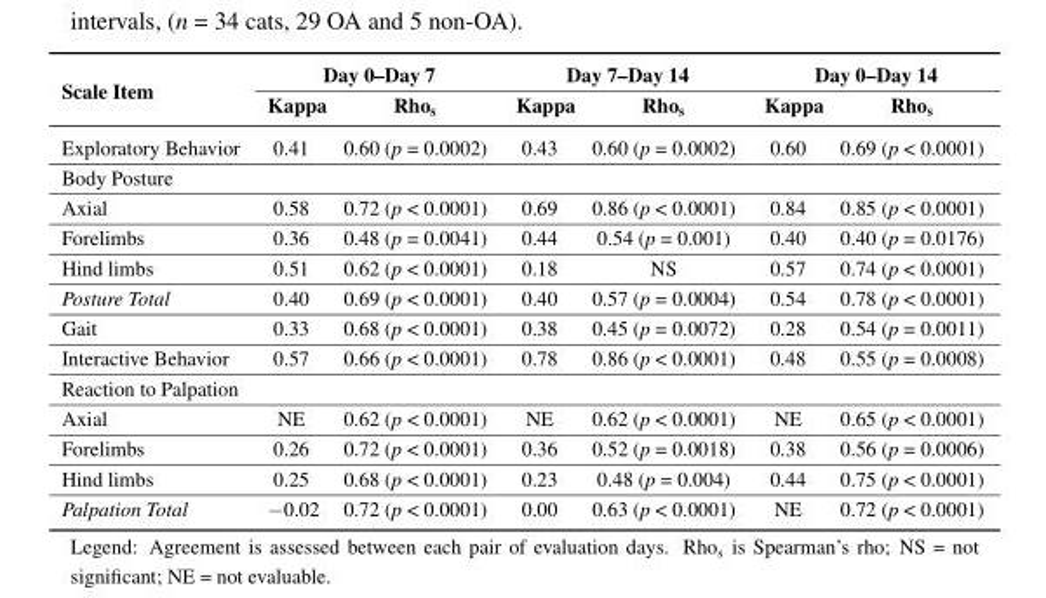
<table><thead><tr><td rowspan="2">Scale Item</td><td colspan="2">Day 0–Day 7</td><td colspan="2">Day 7–Day 14</td><td colspan="2">Day 0–Day 14</td></tr><tr><td>Kappa</td><td>Rho<sub>s</sub></td><td>Kappa</td><td>Rho<sub>s</sub></td><td>Kappa</td><td>Rho<sub>s</sub></td></tr></thead><tbody><tr><td>Exploratory Behavior</td><td>0.41</td><td>0.60 (p = 0.0002)</td><td>0.43</td><td>0.60 (p = 0.0002)</td><td>0.60</td><td>0.69 (p &lt; 0.0001)</td></tr><tr><td colspan="7">Body Posture</td></tr><tr><td>Axial</td><td>0.58</td><td>0.72 (p &lt; 0.0001)</td><td>0.69</td><td>0.86 (p &lt; 0.0001)</td><td>0.84</td><td>0.85 (p &lt; 0.0001)</td></tr><tr><td>Forelimbs</td><td>0.36</td><td>0.48 (p = 0.0041)</td><td>0.44</td><td>0.54 (p = 0.001)</td><td>0.40</td><td>0.40 (p = 0.0176)</td></tr><tr><td>Hind limbs</td><td>0.51</td><td>0.62 (p &lt; 0.0001)</td><td>0.18</td><td>NS</td><td>0.57</td><td>0.74 (p &lt; 0.0001)</td></tr><tr><td>Posture Total</td><td>0.40</td><td>0.69 (p &lt; 0.0001)</td><td>0.40</td><td>0.57 (p = 0.0004)</td><td>0.54</td><td>0.78 (p &lt; 0.0001)</td></tr><tr><td>Gait</td><td>0.33</td><td>0.68 (p &lt; 0.0001)</td><td>0.38</td><td>0.45 (p = 0.0072)</td><td>0.28</td><td>0.54 (p = 0.0011)</td></tr><tr><td>Interactive Behavior</td><td>0.57</td><td>0.66 (p &lt; 0.0001)</td><td>0.78</td><td>0.86 (p &lt; 0.0001)</td><td>0.48</td><td>0.55 (p = 0.0008)</td></tr><tr><td colspan="7">Reaction to Palpation</td></tr><tr><td>Axial</td><td>NE</td><td>0.62 (p &lt; 0.0001)</td><td>NE</td><td>0.62 (p &lt; 0.0001)</td><td>NE</td><td>0.65 (p &lt; 0.0001)</td></tr><tr><td>Forelimbs</td><td>0.26</td><td>0.72 (p &lt; 0.0001)</td><td>0.36</td><td>0.52 (p = 0.0018)</td><td>0.38</td><td>0.56 (p = 0.0006)</td></tr><tr><td>Hind limbs</td><td>0.25</td><td>0.68 (p &lt; 0.0001)</td><td>0.23</td><td>0.48 (p = 0.004)</td><td>0.44</td><td>0.75 (p &lt; 0.0001)</td></tr><tr><td>Palpation Total</td><td>−0.02</td><td>0.72 (p &lt; 0.0001)</td><td>0.00</td><td>0.63 (p &lt; 0.0001)</td><td>NE</td><td>0.72 (p &lt; 0.0001)</td></tr></tbody></table>